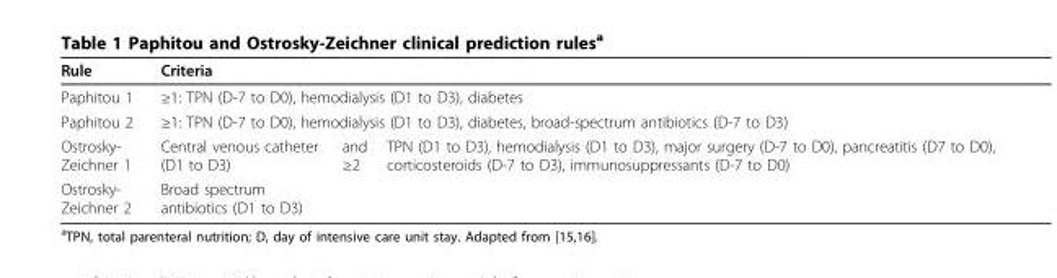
<table><thead><tr><td rowspan="4">Rule Paphitou 1 Paphitou 2 Ostrosky- Zeichner 1</td><td rowspan="3" colspan="3">Criteria ≥1: TPN (D-7 to D0), hemodialysis (D1 to D3), diabetes ≥1: TPN (D-7 to D0), hemodialysis (D1 to D3), diabetes, broad-spectrum antibiotics (D-7 to D3)</td></tr><tr></tr><tr></tr><tr><td>Central venous catheter (D1 to D3)</td><td>and ≥2</td><td>TPN (D1 to D3), hemodialysis (D1 to D3), major surgery (D-7 to D0), pancreatitis (D7 to D0), corticosteroids (D-7 to D3), immunosuppressants (D-7 to D0)</td></tr></thead><tbody><tr><td>Ostrosky- Zeichner 2</td><td>Broad spectrum antibiotics (D1 to D3)</td><td></td><td></td></tr></tbody></table>